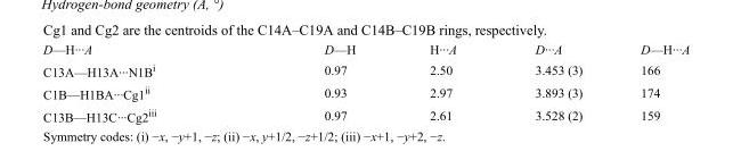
<table><tbody><tr><td>D—H···A</td><td>D—H</td><td>H···A</td><td>D···A</td><td>D—H···A</td></tr><tr><td>C13A—H13A···N1B<sup>i</sup></td><td>0.97</td><td>2.50</td><td>3.453 (3)</td><td>166</td></tr><tr><td>C1B—H1BA···Cg1<sup>ii</sup></td><td>0.93</td><td>2.97</td><td>3.893 (3)</td><td>174</td></tr><tr><td>C13B—H13C···Cg2<sup>iii</sup></td><td>0.97</td><td>2.61</td><td>3.528 (2)</td><td>159</td></tr></tbody></table>